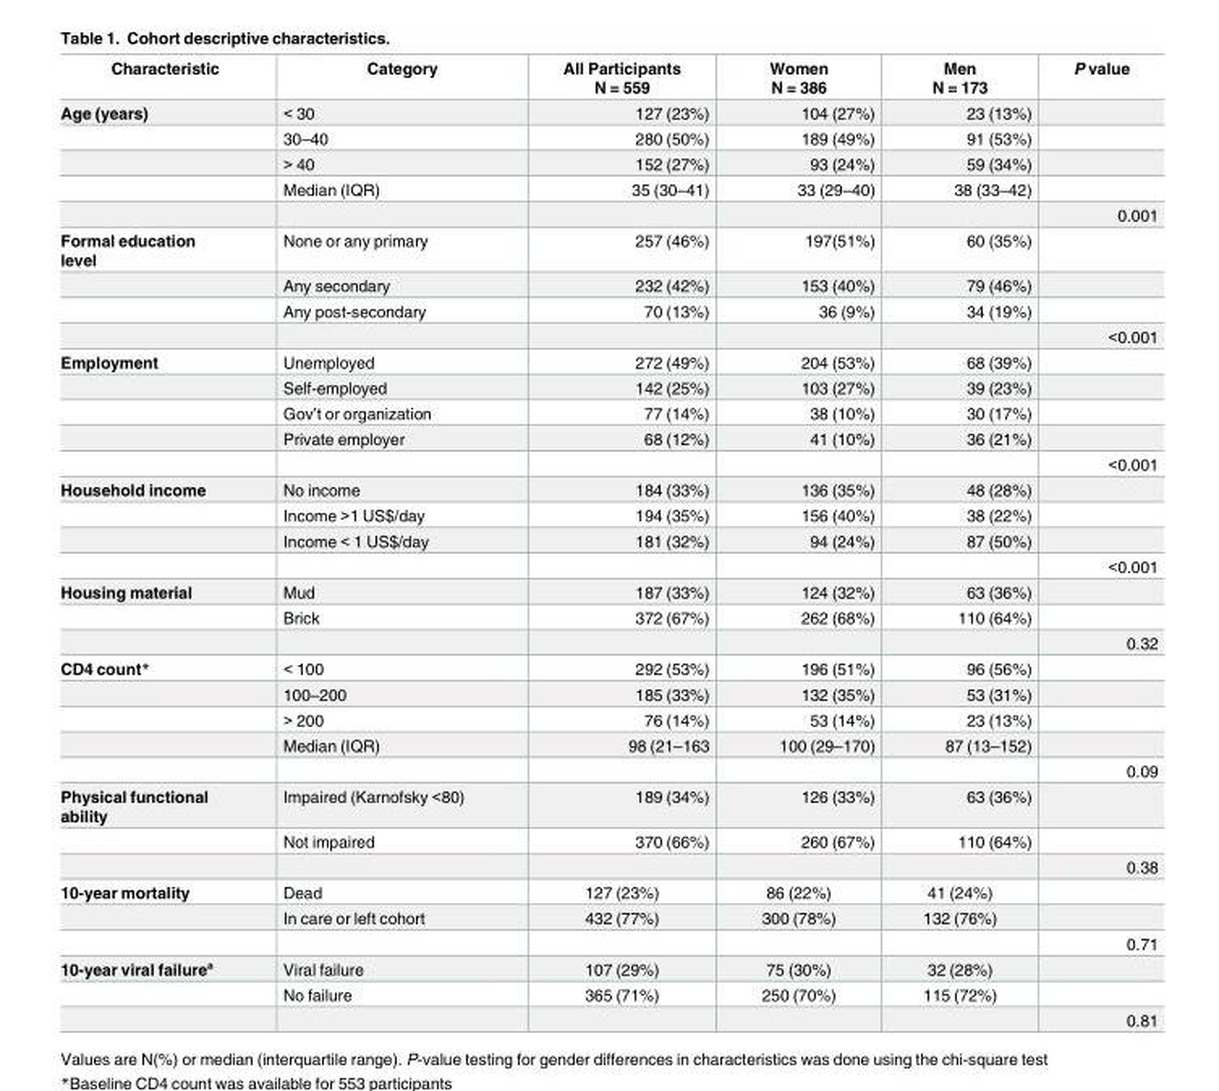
<table><thead><tr><td>Characteristic</td><td>Category</td><td>All Participants N = 559</td><td>Women N = 386</td><td>Men N = 173</td><td>P value</td></tr></thead><tbody><tr><td rowspan="5">Age (years)</td><td>&lt; 30</td><td>127 (23%)</td><td>104 (27%)</td><td>23 (13%)</td><td></td></tr><tr><td>30–40</td><td>280 (50%)</td><td>189 (49%)</td><td>91 (53%)</td><td></td></tr><tr><td>&gt; 40</td><td>152 (27%)</td><td>93 (24%)</td><td>59 (34%)</td><td></td></tr><tr><td>Median (IQR)</td><td>35 (30–41)</td><td>33 (29–40)</td><td>38 (33–42)</td><td></td></tr><tr><td></td><td></td><td></td><td></td><td>0.001</td></tr><tr><td rowspan="4">Formal education level</td><td>None or any primary</td><td>257 (46%)</td><td>197(51%)</td><td>60 (35%)</td><td></td></tr><tr><td>Any secondary</td><td>232 (42%)</td><td>153 (40%)</td><td>79 (46%)</td><td></td></tr><tr><td>Any post-secondary</td><td>70 (13%)</td><td>36 (9%)</td><td>34 (19%)</td><td></td></tr><tr><td></td><td></td><td></td><td></td><td>&lt;0.001</td></tr><tr><td rowspan="5">Employment</td><td>Unemployed</td><td>272 (49%)</td><td>204 (53%)</td><td>68 (39%)</td><td></td></tr><tr><td>Self-employed</td><td>142 (25%)</td><td>103 (27%)</td><td>39 (23%)</td><td></td></tr><tr><td>Gov’t or organization</td><td>77 (14%)</td><td>38 (10%)</td><td>30 (17%)</td><td></td></tr><tr><td>Private employer</td><td>68 (12%)</td><td>41 (10%)</td><td>36 (21%)</td><td></td></tr><tr><td></td><td></td><td></td><td></td><td>&lt;0.001</td></tr><tr><td rowspan="4">Household income</td><td>No income</td><td>184 (33%)</td><td>136 (35%)</td><td>48 (28%)</td><td></td></tr><tr><td>Income &gt;1 US$/day</td><td>194 (35%)</td><td>156 (40%)</td><td>38 (22%)</td><td></td></tr><tr><td>Income &lt; 1 US$/day</td><td>181 (32%)</td><td>94 (24%)</td><td>87 (50%)</td><td></td></tr><tr><td></td><td></td><td></td><td></td><td>&lt;0.001</td></tr><tr><td rowspan="3">Housing material</td><td>Mud</td><td>187 (33%)</td><td>124 (32%)</td><td>63 (36%)</td><td></td></tr><tr><td>Brick</td><td>372 (67%)</td><td>262 (68%)</td><td>110 (64%)</td><td></td></tr><tr><td></td><td></td><td></td><td></td><td>0.32</td></tr><tr><td rowspan="5">CD4 count*</td><td>&lt; 100</td><td>292 (53%)</td><td>196 (51%)</td><td>96 (56%)</td><td></td></tr><tr><td>100–200</td><td>185 (33%)</td><td>132 (35%)</td><td>53 (31%)</td><td></td></tr><tr><td>&gt; 200</td><td>76 (14%)</td><td>53 (14%)</td><td>23 (13%)</td><td></td></tr><tr><td>Median (IQR)</td><td>98 (21–163</td><td>100 (29–170)</td><td>87 (13–152)</td><td></td></tr><tr><td></td><td></td><td></td><td></td><td>0.09</td></tr><tr><td rowspan="3">Physical functional ability</td><td>Impaired (Karnofsky &lt;80)</td><td>189 (34%)</td><td>126 (33%)</td><td>63 (36%)</td><td></td></tr><tr><td>Not impaired</td><td>370 (66%)</td><td>260 (67%)</td><td>110 (64%)</td><td></td></tr><tr><td></td><td></td><td></td><td></td><td>0.38</td></tr><tr><td rowspan="3">10-year mortality</td><td>Dead</td><td>127 (23%)</td><td>86 (22%)</td><td>41 (24%)</td><td></td></tr><tr><td>In care or left cohort</td><td>432 (77%)</td><td>300 (78%)</td><td>132 (76%)</td><td></td></tr><tr><td></td><td></td><td></td><td></td><td>0.71</td></tr><tr><td rowspan="3">10-year viral failureª</td><td>Viral failure</td><td>107 (29%)</td><td>75 (30%)</td><td>32 (28%)</td><td></td></tr><tr><td>No failure</td><td>365 (71%)</td><td>250 (70%)</td><td>115 (72%)</td><td></td></tr><tr><td></td><td></td><td></td><td></td><td>0.81</td></tr></tbody></table>